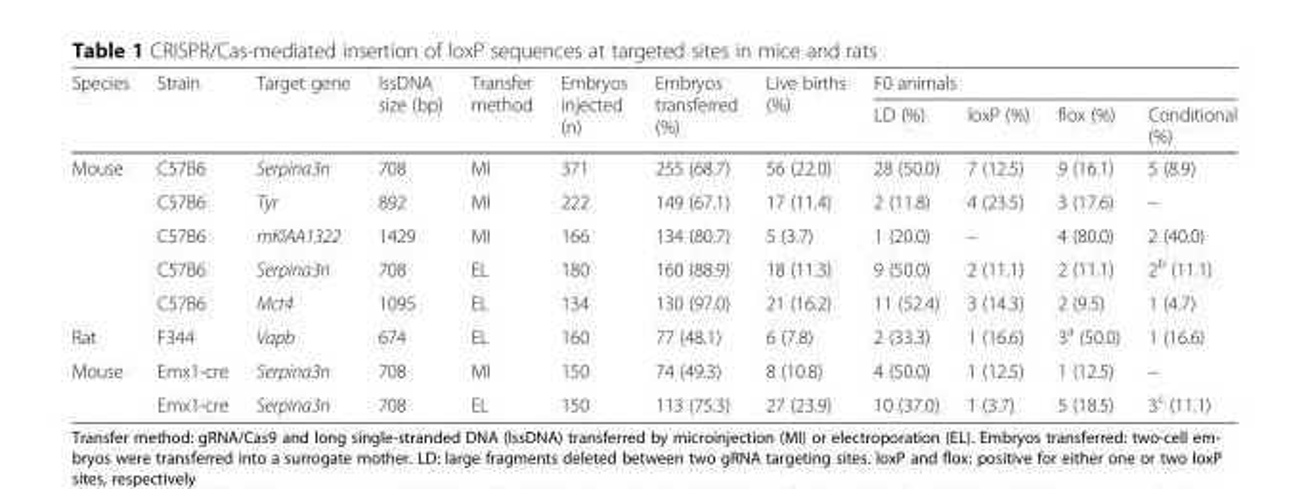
<table><thead><tr><td rowspan="2">Species</td><td rowspan="2">Strain</td><td rowspan="2">Target gene</td><td rowspan="2">lssDNA size (bp)</td><td rowspan="2">Transfer method</td><td rowspan="2">Embryos injected (n)</td><td rowspan="2">Embryos transferred (%)</td><td rowspan="2">Live births (%)</td><td colspan="4">F0 animals</td></tr><tr><td>LD (%)</td><td>loxP (%)</td><td>flox (%)</td><td>Conditional (%)</td></tr></thead><tbody><tr><td rowspan="5">Mouse</td><td>C57B6</td><td>Serpina3n</td><td>708</td><td>MI</td><td>371</td><td>255 (68.7)</td><td>56 (22.0)</td><td>28 (50.0)</td><td>7 (12.5)</td><td>9 (16.1)</td><td>5 (8.9)</td></tr><tr><td>C57B6</td><td>Tyr</td><td>892</td><td>MI</td><td>222</td><td>149 (67.1)</td><td>17 (11.4)</td><td>2 (11.8)</td><td>4 (23.5)</td><td>3 (17.6)</td><td>–</td></tr><tr><td>C57B6</td><td>mKIAA1322</td><td>1429</td><td>MI</td><td>166</td><td>134 (80.7)</td><td>5 (3.7)</td><td>1 (20.0)</td><td>–</td><td>4 (80.0)</td><td>2 (40.0)</td></tr><tr><td>C57B6</td><td>Serpina3n</td><td>708</td><td>EL</td><td>180</td><td>160 (88.9)</td><td>18 (11.3)</td><td>9 (50.0)</td><td>2 (11.1)</td><td>2 (11.1)</td><td>2<sup>b</sup> (11.1)</td></tr><tr><td>C57B6</td><td>Mct4</td><td>1095</td><td>EL</td><td>134</td><td>130 (97.0)</td><td>21 (16.2)</td><td>11 (52.4)</td><td>3 (14.3)</td><td>2 (9.5)</td><td>1 (4.7)</td></tr><tr><td>Rat</td><td>F344</td><td>Vapb</td><td>674</td><td>EL</td><td>160</td><td>77 (48.1)</td><td>6 (7.8)</td><td>2 (33.3)</td><td>1 (16.6)</td><td>3<sup>a</sup> (50.0)</td><td>1 (16.6)</td></tr><tr><td rowspan="2">Mouse</td><td>Emx1-cre</td><td>Serpina3n</td><td>708</td><td>MI</td><td>150</td><td>74 (49.3)</td><td>8 (10.8)</td><td>4 (50.0)</td><td>1 (12.5)</td><td>1 (12.5)</td><td>–</td></tr><tr><td>Emx1-cre</td><td>Serpina3n</td><td>708</td><td>EL</td><td>150</td><td>113 (75.3)</td><td>27 (23.9)</td><td>10 (37.0)</td><td>1 (3.7)</td><td>5 (18.5)</td><td>3<sup>c</sup> (11.1)</td></tr></tbody></table>